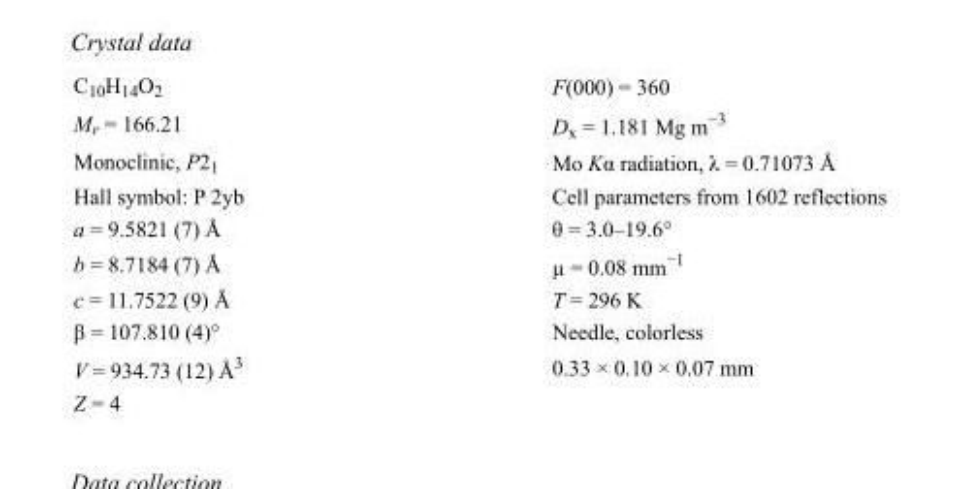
<table><tbody><tr><td>C<sub>10</sub>H<sub>14</sub>O<sub>2</sub></td><td>F(000) = 360</td></tr><tr><td>M<sub>r</sub> = 166.21</td><td>D<sub>x</sub> = 1.181 Mg m<sup>−3</sup></td></tr><tr><td>Monoclinic, P2<sub>1</sub></td><td>Mo Kα radiation, λ = 0.71073 Å</td></tr><tr><td>Hall symbol: P 2yb</td><td>Cell parameters from 1602 reflections</td></tr><tr><td>a = 9.5821 (7) Å</td><td>θ = 3.0–19.6°</td></tr><tr><td>b = 8.7184 (7) Å</td><td>µ = 0.08 mm<sup>−1</sup></td></tr><tr><td>c = 11.7522 (9) Å</td><td>T = 296 K</td></tr><tr><td>β = 107.810 (4)°</td><td>Needle, colorless</td></tr><tr><td>V = 934.73 (12) Å<sup>3</sup></td><td>0.33 × 0.10 × 0.07 mm</td></tr><tr><td>Z = 4</td><td></td></tr></tbody></table>